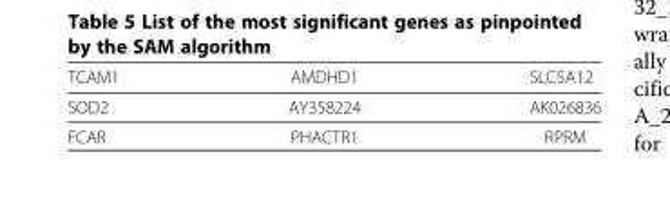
<table><thead><tr><td>TCAM1</td><td>AMDHD1</td><td>SLC5A12</td></tr></thead><tbody><tr><td>SOD2</td><td>AY358224</td><td>AK026836</td></tr><tr><td>FCAR</td><td>PHACTR1</td><td>RPRM</td></tr></tbody></table>